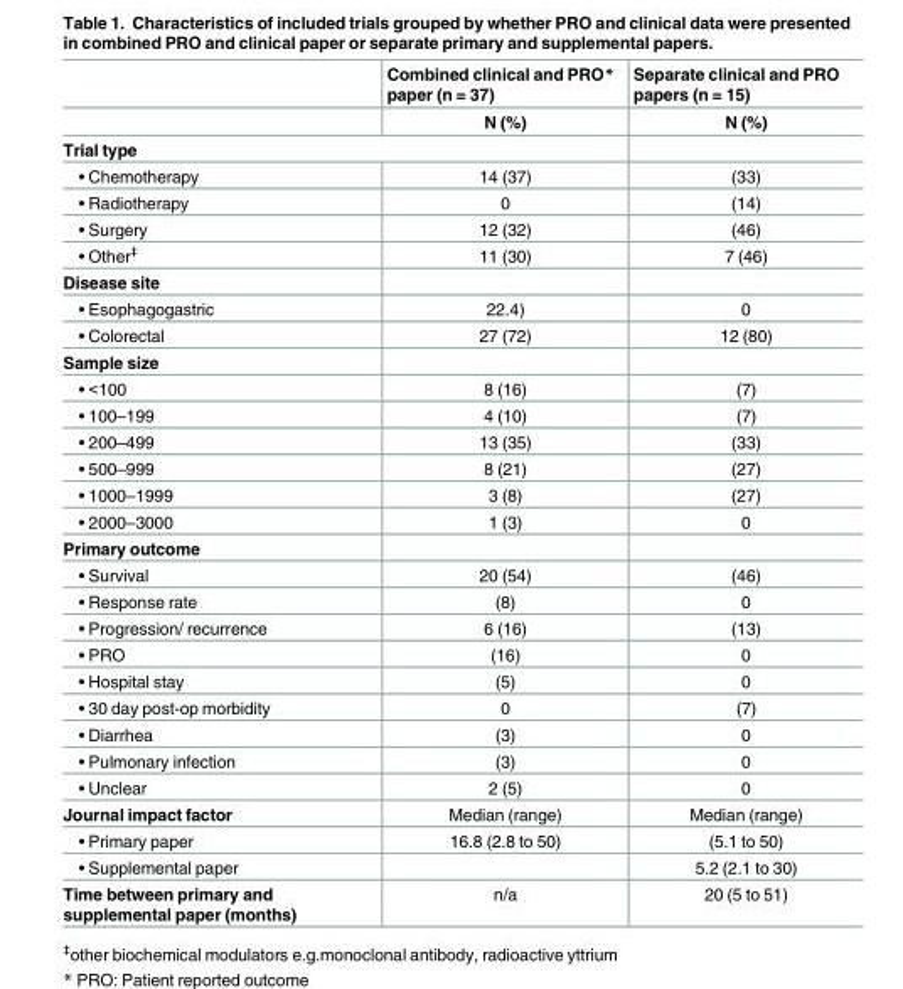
<table><thead><tr><td rowspan="2"></td><td rowspan="2">Combined clinical and PRO* paper (n = 37) N (%)</td><td rowspan="2">Separate clinical and PRO papers (n = 15) N (%)</td></tr><tr></tr></thead><tbody><tr><td colspan="3">Trial type</td></tr><tr><td>• Chemotherapy</td><td>14 (37)</td><td>(33)</td></tr><tr><td>• Radiotherapy</td><td>0</td><td>(14)</td></tr><tr><td>• Surgery</td><td>12 (32)</td><td>(46)</td></tr><tr><td>• Other<sup>‡</sup></td><td>11 (30)</td><td>7 (46)</td></tr><tr><td colspan="3">Disease site</td></tr><tr><td>• Esophagogastric</td><td>22.4)</td><td>0</td></tr><tr><td>• Colorectal</td><td>27 (72)</td><td>12 (80)</td></tr><tr><td colspan="3">Sample size</td></tr><tr><td>• &lt;100</td><td>8 (16)</td><td>(7)</td></tr><tr><td>• 100–199</td><td>4 (10)</td><td>(7)</td></tr><tr><td>• 200–499</td><td>13 (35)</td><td>(33)</td></tr><tr><td>• 500–999</td><td>8 (21)</td><td>(27)</td></tr><tr><td>• 1000–1999</td><td>3 (8)</td><td>(27)</td></tr><tr><td>• 2000–3000</td><td>1 (3)</td><td>0</td></tr><tr><td colspan="3">Primary outcome</td></tr><tr><td>• Survival</td><td>20 (54)</td><td>(46)</td></tr><tr><td>• Response rate</td><td>(8)</td><td>0</td></tr><tr><td>• Progression/ recurrence</td><td>6 (16)</td><td>(13)</td></tr><tr><td>• PRO</td><td>(16)</td><td>0</td></tr><tr><td>• Hospital stay</td><td>(5)</td><td>0</td></tr><tr><td>• 30 day post-op morbidity</td><td>0</td><td>(7)</td></tr><tr><td>• Diarrhea</td><td>(3)</td><td>0</td></tr><tr><td>• Pulmonary infection</td><td>(3)</td><td>0</td></tr><tr><td>• Unclear</td><td>2 (5)</td><td>0</td></tr><tr><td>Journal impact factor</td><td>Median (range)</td><td>Median (range)</td></tr><tr><td>• Primary paper</td><td>16.8 (2.8 to 50)</td><td>(5.1 to 50)</td></tr><tr><td>• Supplemental paper</td><td></td><td>5.2 (2.1 to 30)</td></tr><tr><td>Time between primary and supplemental paper (months)</td><td>n/a</td><td>20 (5 to 51)</td></tr></tbody></table>